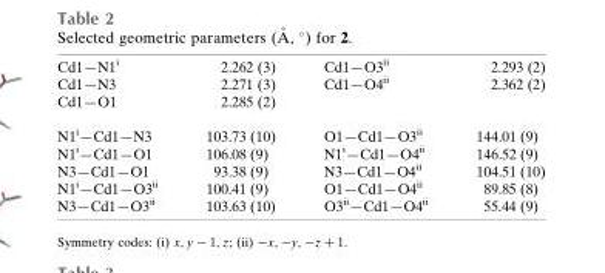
<table><tbody><tr><td>Cd1—N1<sup>i</sup></td><td>2.262 (3)</td><td>Cd1—O3<sup>ii</sup></td><td>2.293 (2)</td></tr><tr><td>Cd1—N3</td><td>2.271 (3)</td><td>Cd1—O4<sup>ii</sup></td><td>2.362 (2)</td></tr><tr><td>Cd1—O1</td><td>2.285 (2)</td><td></td><td></td></tr><tr><td>N1<sup>i</sup>—Cd1—N3</td><td>103.73 (10)</td><td>O1—Cd1—O3<sup>ii</sup></td><td>144.01 (9)</td></tr><tr><td>N1<sup>i</sup>—Cd1—O1</td><td>106.08 (9)</td><td>N1<sup>i</sup>—Cd1—O4<sup>ii</sup></td><td>146.52 (9)</td></tr><tr><td>N3—Cd1—O1</td><td>93.38 (9)</td><td>N3—Cd1—O4<sup>ii</sup></td><td>104.51 (10)</td></tr><tr><td>N1<sup>i</sup>—Cd1—O3<sup>ii</sup></td><td>100.41 (9)</td><td>O1—Cd1—O4<sup>ii</sup></td><td>89.85 (8)</td></tr><tr><td>N3—Cd1—O3<sup>ii</sup></td><td>103.63 (10)</td><td>O3<sup>ii</sup>—Cd1—O4<sup>ii</sup></td><td>55.44 (9)</td></tr></tbody></table>